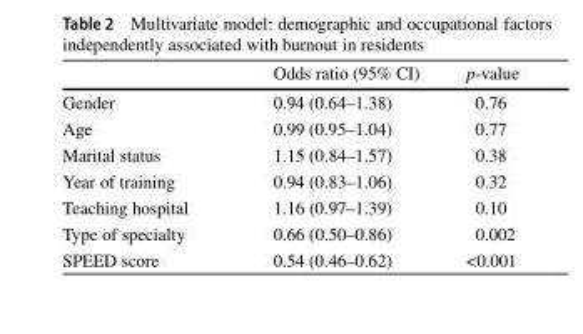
<table><thead><tr><td></td><td>Odds ratio (95% CI)</td><td>p-value</td></tr></thead><tbody><tr><td>Gender</td><td>0.94 (0.64–1.38)</td><td>0.76</td></tr><tr><td>Age</td><td>0.99 (0.95–1.04)</td><td>0.77</td></tr><tr><td>Marital status</td><td>1.15 (0.84–1.57)</td><td>0.38</td></tr><tr><td>Year of training</td><td>0.94 (0.83–1.06)</td><td>0.32</td></tr><tr><td>Teaching hospital</td><td>1.16 (0.97–1.39)</td><td>0.10</td></tr><tr><td>Type of specialty</td><td>0.66 (0.50–0.86)</td><td>0.002</td></tr><tr><td>SPEED score</td><td>0.54 (0.46–0.62)</td><td>&lt;0.001</td></tr></tbody></table>